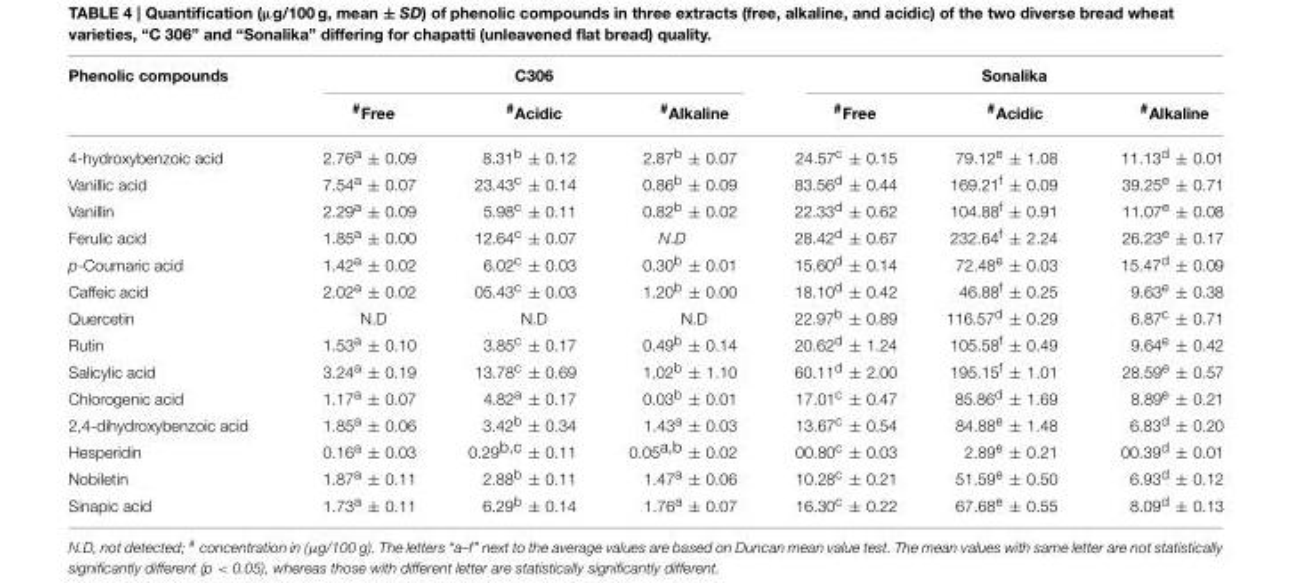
<table><thead><tr><td rowspan="2">Phenolic compounds</td><td colspan="3">C306</td><td colspan="3">Sonalika</td></tr><tr><td><sup>#</sup>Free</td><td><sup>#</sup>Acidic</td><td><sup>#</sup>Alkaline</td><td><sup>#</sup>Free</td><td><sup>#</sup>Acidic</td><td><sup>#</sup>Alkaline</td></tr></thead><tbody><tr><td>4-hydroxybenzoic acid</td><td>2.76<sup>a</sup> ± 0.09</td><td>8.31<sup>b</sup> ± 0.12</td><td>2.87<sup>b</sup> ± 0.07</td><td>24.57<sup>c</sup> ± 0.15</td><td>79.12<sup>e</sup> ± 1.08</td><td>11.13<sup>d</sup> ± 0.01</td></tr><tr><td>Vanillic acid</td><td>7.54<sup>a</sup> ± 0.07</td><td>23.43<sup>c</sup> ± 0.14</td><td>0.86<sup>b</sup> ± 0.09</td><td>83.56<sup>d</sup> ± 0.44</td><td>169.21<sup>f</sup> ± 0.09</td><td>39.25<sup>e</sup> ± 0.71</td></tr><tr><td>Vanillin</td><td>2.29<sup>a</sup> ± 0.09</td><td>5.98<sup>c</sup> ± 0.11</td><td>0.82<sup>b</sup> ± 0.02</td><td>22.33<sup>d</sup> ± 0.62</td><td>104.88<sup>f</sup> ± 0.91</td><td>11.07<sup>e</sup> ± 0.08</td></tr><tr><td>Ferulic acid</td><td>1.85<sup>a</sup> ± 0.00</td><td>12.64<sup>c</sup> ± 0.07</td><td>N.D</td><td>28.42<sup>d</sup> ± 0.67</td><td>232.64<sup>f</sup> ± 2.24</td><td>26.23<sup>e</sup> ± 0.17</td></tr><tr><td>p-Coumaric acid</td><td>1.42<sup>a</sup> ± 0.02</td><td>6.02<sup>c</sup> ± 0.03</td><td>0.30<sup>b</sup> ± 0.01</td><td>15.60<sup>d</sup> ± 0.14</td><td>72.48<sup>e</sup> ± 0.03</td><td>15.47<sup>d</sup> ± 0.09</td></tr><tr><td>Caffeic acid</td><td>2.02<sup>a</sup> ± 0.02</td><td>05.43<sup>c</sup> ± 0.03</td><td>1.20<sup>b</sup> ± 0.00</td><td>18.10<sup>d</sup> ± 0.42</td><td>46.88<sup>f</sup> ± 0.25</td><td>9.63<sup>e</sup> ± 0.38</td></tr><tr><td>Quercetin</td><td>N.D</td><td>N.D</td><td>N.D</td><td>22.97<sup>b</sup> ± 0.89</td><td>116.57<sup>d</sup> ± 0.29</td><td>6.87<sup>c</sup> ± 0.71</td></tr><tr><td>Rutin</td><td>1.53<sup>a</sup> ± 0.10</td><td>3.85<sup>c</sup> ± 0.17</td><td>0.49<sup>b</sup> ± 0.14</td><td>20.62<sup>d</sup> ± 1.24</td><td>105.58<sup>f</sup> ± 0.49</td><td>9.64<sup>e</sup> ± 0.42</td></tr><tr><td>Salicylic acid</td><td>3.24<sup>a</sup> ± 0.19</td><td>13.78<sup>c</sup> ± 0.69</td><td>1.02<sup>b</sup> ± 1.10</td><td>60.11<sup>d</sup> ± 2.00</td><td>195.15<sup>f</sup> ± 1.01</td><td>28.59<sup>e</sup> ± 0.57</td></tr><tr><td>Chlorogenic acid</td><td>1.17<sup>a</sup> ± 0.07</td><td>4.82<sup>a</sup> ± 0.17</td><td>0.03<sup>b</sup> ± 0.01</td><td>17.01<sup>c</sup> ± 0.47</td><td>85.86<sup>d</sup> ± 1.69</td><td>8.89<sup>e</sup> ± 0.21</td></tr><tr><td>2,4-dihydroxybenzoic acid</td><td>1.85<sup>a</sup> ± 0.06</td><td>3.42<sup>b</sup> ± 0.34</td><td>1.43<sup>a</sup> ± 0.03</td><td>13.67<sup>c</sup> ± 0.54</td><td>84.88<sup>e</sup> ± 1.48</td><td>6.83<sup>d</sup> ± 0.20</td></tr><tr><td>Hesperidin</td><td>0.16<sup>a</sup> ± 0.03</td><td>0.29<sup>b,c</sup> ± 0.11</td><td>0.05<sup>a,b</sup> ± 0.02</td><td>00.80<sup>c</sup> ± 0.03</td><td>2.89<sup>e</sup> ± 0.21</td><td>00.39<sup>d</sup> ± 0.01</td></tr><tr><td>Nobiletin</td><td>1.87<sup>a</sup> ± 0.11</td><td>2.88<sup>b</sup> ± 0.11</td><td>1.47<sup>a</sup> ± 0.06</td><td>10.28<sup>c</sup> ± 0.21</td><td>51.59<sup>e</sup> ± 0.50</td><td>6.93<sup>d</sup> ± 0.12</td></tr><tr><td>Sinapic acid</td><td>1.73<sup>a</sup> ± 0.11</td><td>6.29<sup>b</sup> ± 0.14</td><td>1.76<sup>a</sup> ± 0.07</td><td>16.30<sup>c</sup> ± 0.22</td><td>67.68<sup>e</sup> ± 0.55</td><td>8.09<sup>d</sup> ± 0.13</td></tr></tbody></table>